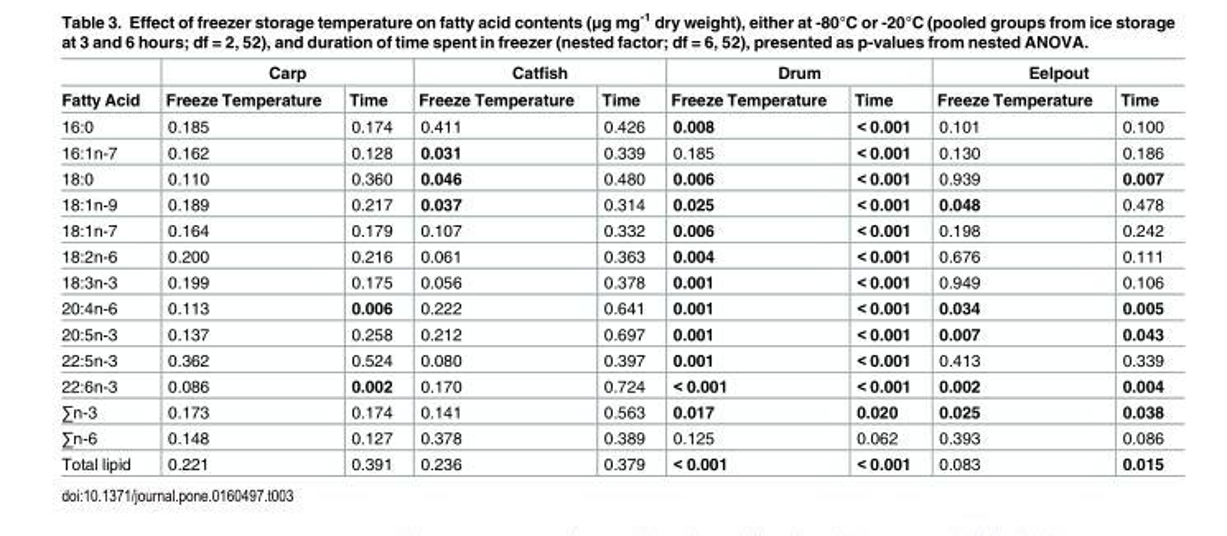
<table><thead><tr><td rowspan="2">Fatty Acid</td><td colspan="2">Carp</td><td colspan="2">Catfish</td><td colspan="2">Drum</td><td colspan="2">Eelpout</td></tr><tr><td>Freeze Temperature</td><td>Time</td><td>Freeze Temperature</td><td>Time</td><td>Freeze Temperature</td><td>Time</td><td>Freeze Temperature</td><td>Time</td></tr></thead><tbody><tr><td>16:0</td><td>0.185</td><td>0.174</td><td>0.411</td><td>0.426</td><td>0.008</td><td>&lt; 0.001</td><td>0.101</td><td>0.100</td></tr><tr><td>16:1n-7</td><td>0.162</td><td>0.128</td><td>0.031</td><td>0.339</td><td>0.185</td><td>&lt; 0.001</td><td>0.130</td><td>0.186</td></tr><tr><td>18:0</td><td>0.110</td><td>0.360</td><td>0.046</td><td>0.480</td><td>0.006</td><td>&lt; 0.001</td><td>0.939</td><td>0.007</td></tr><tr><td>18:1n-9</td><td>0.189</td><td>0.217</td><td>0.037</td><td>0.314</td><td>0.025</td><td>&lt; 0.001</td><td>0.048</td><td>0.478</td></tr><tr><td>18:1n-7</td><td>0.164</td><td>0.179</td><td>0.107</td><td>0.332</td><td>0.006</td><td>&lt; 0.001</td><td>0.198</td><td>0.242</td></tr><tr><td>18:2n-6</td><td>0.200</td><td>0.216</td><td>0.061</td><td>0.363</td><td>0.004</td><td>&lt; 0.001</td><td>0.676</td><td>0.111</td></tr><tr><td>18:3n-3</td><td>0.199</td><td>0.175</td><td>0.056</td><td>0.378</td><td>0.001</td><td>&lt; 0.001</td><td>0.949</td><td>0.106</td></tr><tr><td>20:4n-6</td><td>0.113</td><td>0.006</td><td>0.222</td><td>0.641</td><td>0.001</td><td>&lt; 0.001</td><td>0.034</td><td>0.005</td></tr><tr><td>20:5n-3</td><td>0.137</td><td>0.258</td><td>0.212</td><td>0.697</td><td>0.001</td><td>&lt; 0.001</td><td>0.007</td><td>0.043</td></tr><tr><td>22:5n-3</td><td>0.362</td><td>0.524</td><td>0.080</td><td>0.397</td><td>0.001</td><td>&lt; 0.001</td><td>0.413</td><td>0.339</td></tr><tr><td>22:6n-3</td><td>0.086</td><td>0.002</td><td>0.170</td><td>0.724</td><td>&lt; 0.001</td><td>&lt; 0.001</td><td>0.002</td><td>0.004</td></tr><tr><td>∑n-3</td><td>0.173</td><td>0.174</td><td>0.141</td><td>0.563</td><td>0.017</td><td>0.020</td><td>0.025</td><td>0.038</td></tr><tr><td>∑n-6</td><td>0.148</td><td>0.127</td><td>0.378</td><td>0.389</td><td>0.125</td><td>0.062</td><td>0.393</td><td>0.086</td></tr><tr><td>Total lipid</td><td>0.221</td><td>0.391</td><td>0.236</td><td>0.379</td><td>&lt; 0.001</td><td>&lt; 0.001</td><td>0.083</td><td>0.015</td></tr></tbody></table>